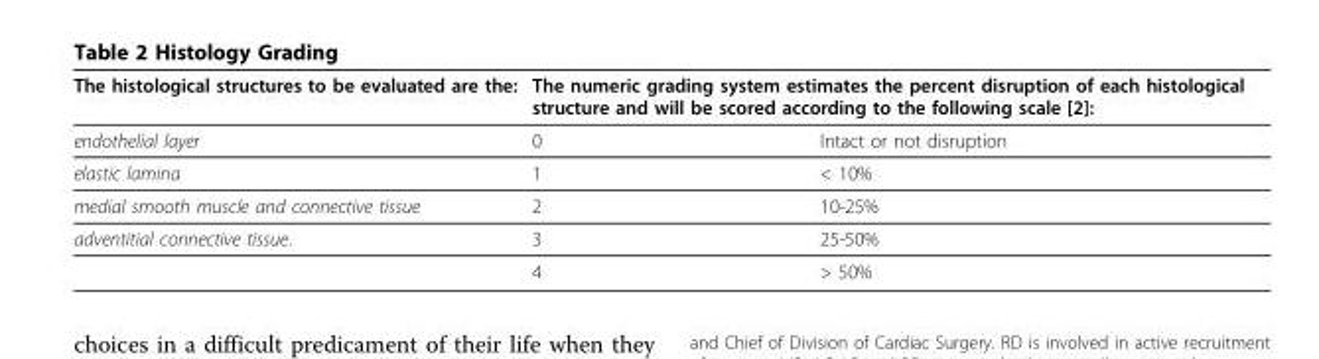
<table><thead><tr><td rowspan="2">The histological structures to be evaluated are the: endothelial layer</td><td colspan="2">The numeric grading system estimates the percent disruption of each histological structure and will be scored according to the following scale [2]:</td></tr><tr><td>0</td><td>Intact or not disruption</td></tr></thead><tbody><tr><td>elastic lamina</td><td>1</td><td>&lt; 10%</td></tr><tr><td>medial smooth muscle and connective tissue</td><td>2</td><td>10-25%</td></tr><tr><td rowspan="2">adventitial connective tissue.</td><td>3</td><td>25-50%</td></tr><tr><td>4</td><td>&gt; 50%</td></tr></tbody></table>